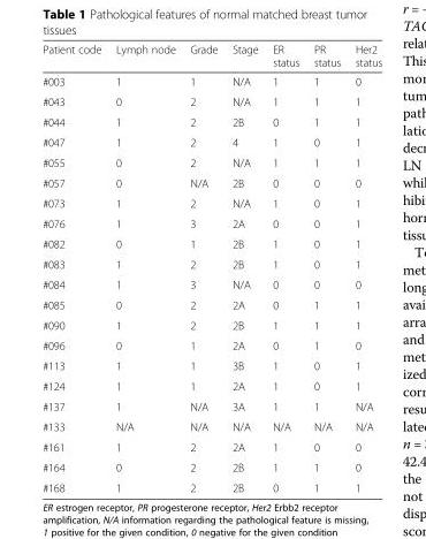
<table><thead><tr><td>Patient code</td><td>Lymph node</td><td>Grade</td><td>Stage</td><td>ER status</td><td>PR status</td><td>Her2 status</td></tr></thead><tbody><tr><td>#003</td><td>1</td><td>1</td><td>N/A</td><td>1</td><td>1</td><td>0</td></tr><tr><td>#043</td><td>0</td><td>2</td><td>N/A</td><td>1</td><td>1</td><td>1</td></tr><tr><td>#044</td><td>1</td><td>2</td><td>2B</td><td>0</td><td>1</td><td>1</td></tr><tr><td>#047</td><td>1</td><td>2</td><td>4</td><td>1</td><td>0</td><td>1</td></tr><tr><td>#055</td><td>0</td><td>2</td><td>N/A</td><td>1</td><td>1</td><td>1</td></tr><tr><td>#057</td><td>0</td><td>N/A</td><td>2B</td><td>0</td><td>0</td><td>0</td></tr><tr><td>#073</td><td>1</td><td>2</td><td>N/A</td><td>1</td><td>0</td><td>1</td></tr><tr><td>#076</td><td>1</td><td>3</td><td>2A</td><td>0</td><td>0</td><td>1</td></tr><tr><td>#082</td><td>0</td><td>1</td><td>2B</td><td>1</td><td>0</td><td>1</td></tr><tr><td>#083</td><td>1</td><td>2</td><td>2B</td><td>1</td><td>0</td><td>1</td></tr><tr><td>#084</td><td>1</td><td>3</td><td>N/A</td><td>0</td><td>0</td><td>0</td></tr><tr><td>#085</td><td>0</td><td>2</td><td>2A</td><td>0</td><td>1</td><td>1</td></tr><tr><td>#090</td><td>1</td><td>2</td><td>2B</td><td>1</td><td>1</td><td>1</td></tr><tr><td>#096</td><td>0</td><td>1</td><td>2A</td><td>0</td><td>1</td><td>0</td></tr><tr><td>#113</td><td>1</td><td>1</td><td>3B</td><td>1</td><td>0</td><td>1</td></tr><tr><td>#124</td><td>1</td><td>1</td><td>2A</td><td>1</td><td>0</td><td>1</td></tr><tr><td>#137</td><td>1</td><td>N/A</td><td>3A</td><td>1</td><td>1</td><td>N/A</td></tr><tr><td>#133</td><td>N/A</td><td>N/A</td><td>N/A</td><td>N/A</td><td>N/A</td><td>N/A</td></tr><tr><td>#161</td><td>1</td><td>2</td><td>2A</td><td>1</td><td>0</td><td>0</td></tr><tr><td>#164</td><td>0</td><td>2</td><td>2B</td><td>1</td><td>1</td><td>0</td></tr><tr><td>#168</td><td>1</td><td>2</td><td>2B</td><td>0</td><td>1</td><td>1</td></tr></tbody></table>